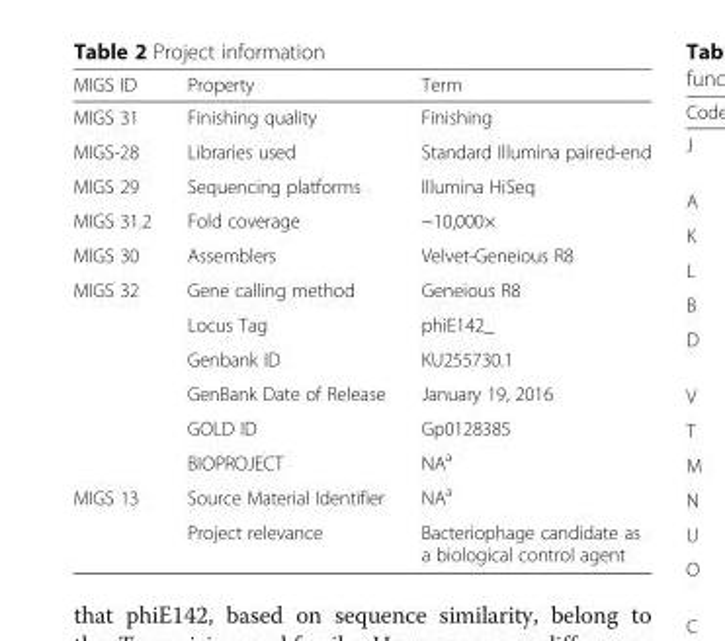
<table><thead><tr><td>MIGS ID</td><td>Property</td><td>Term</td></tr></thead><tbody><tr><td>MIGS 31</td><td>Finishing quality</td><td>Finishing</td></tr><tr><td>MIGS-28</td><td>Libraries used</td><td>Standard Illumina paired-end</td></tr><tr><td>MIGS 29</td><td>Sequencing platforms</td><td>Illumina HiSeq</td></tr><tr><td>MIGS 31.2</td><td>Fold coverage</td><td>~10,000×</td></tr><tr><td>MIGS 30</td><td>Assemblers</td><td>Velvet-Geneious R8</td></tr><tr><td rowspan="6">MIGS 32</td><td>Gene calling method</td><td>Geneious R8</td></tr><tr><td>Locus Tag</td><td>phiE142_</td></tr><tr><td>Genbank ID</td><td>KU255730.1</td></tr><tr><td>GenBank Date of Release</td><td>January 19, 2016</td></tr><tr><td>GOLD ID</td><td>Gp0128385</td></tr><tr><td>BIOPROJECT</td><td>NA<sup>a</sup></td></tr><tr><td rowspan="2">MIGS 13</td><td>Source Material Identifier</td><td>NA<sup>a</sup></td></tr><tr><td>Project relevance</td><td>Bacteriophage candidate as a biological control agent</td></tr></tbody></table>